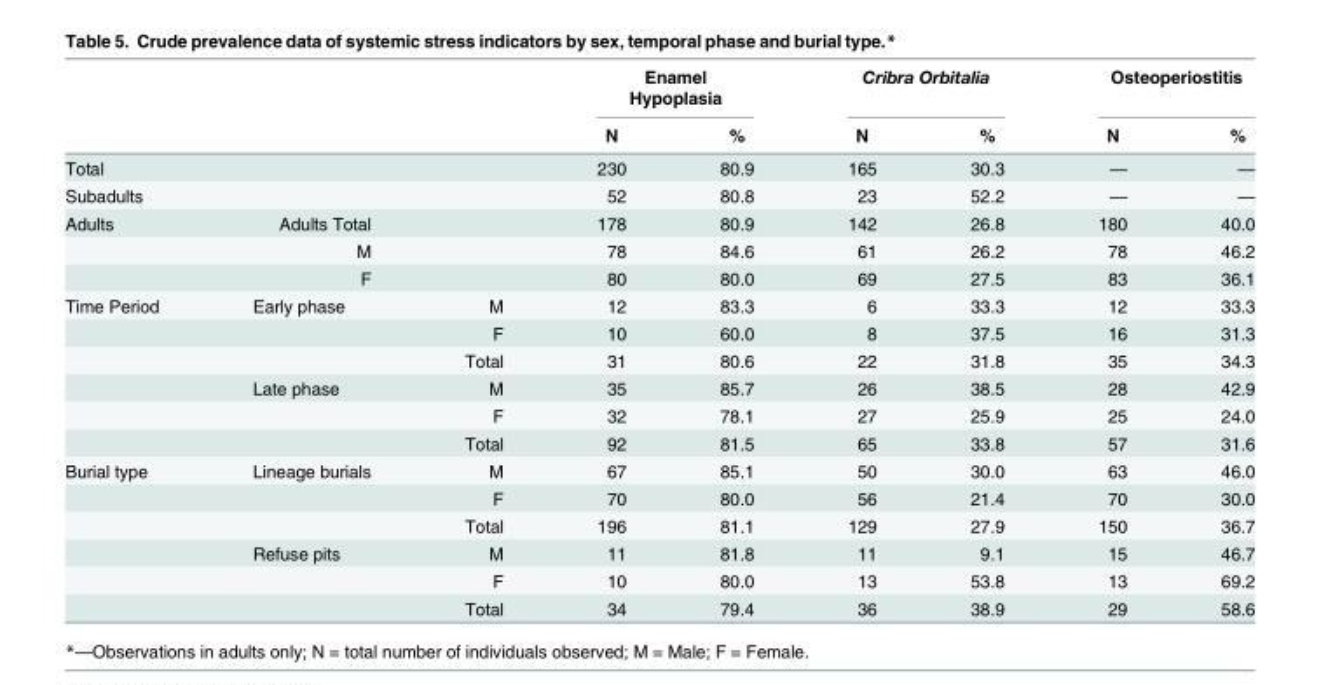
<table><thead><tr><td rowspan="2"></td><td rowspan="2"></td><td rowspan="2"></td><td colspan="2">Enamel Hypoplasia</td><td colspan="2">Cribra Orbitalia</td><td colspan="2">Osteoperiostitis</td></tr><tr><td>N</td><td>%</td><td>N</td><td>%</td><td>N</td><td>%</td></tr></thead><tbody><tr><td>Total</td><td></td><td></td><td>230</td><td>80.9</td><td>165</td><td>30.3</td><td>—</td><td>—</td></tr><tr><td>Subadults</td><td></td><td></td><td>52</td><td>80.8</td><td>23</td><td>52.2</td><td>—</td><td>—</td></tr><tr><td rowspan="3">Adults</td><td>Adults Total</td><td></td><td>178</td><td>80.9</td><td>142</td><td>26.8</td><td>180</td><td>40.0</td></tr><tr><td>M</td><td></td><td>78</td><td>84.6</td><td>61</td><td>26.2</td><td>78</td><td>46.2</td></tr><tr><td>F</td><td></td><td>80</td><td>80.0</td><td>69</td><td>27.5</td><td>83</td><td>36.1</td></tr><tr><td rowspan="6">Time Period</td><td>Early phase</td><td>M</td><td>12</td><td>83.3</td><td>6</td><td>33.3</td><td>12</td><td>33.3</td></tr><tr><td></td><td>F</td><td>10</td><td>60.0</td><td>8</td><td>37.5</td><td>16</td><td>31.3</td></tr><tr><td></td><td>Total</td><td>31</td><td>80.6</td><td>22</td><td>31.8</td><td>35</td><td>34.3</td></tr><tr><td>Late phase</td><td>M</td><td>35</td><td>85.7</td><td>26</td><td>38.5</td><td>28</td><td>42.9</td></tr><tr><td></td><td>F</td><td>32</td><td>78.1</td><td>27</td><td>25.9</td><td>25</td><td>24.0</td></tr><tr><td></td><td>Total</td><td>92</td><td>81.5</td><td>65</td><td>33.8</td><td>57</td><td>31.6</td></tr><tr><td rowspan="6">Burial type</td><td>Lineage burials</td><td>M</td><td>67</td><td>85.1</td><td>50</td><td>30.0</td><td>63</td><td>46.0</td></tr><tr><td></td><td>F</td><td>70</td><td>80.0</td><td>56</td><td>21.4</td><td>70</td><td>30.0</td></tr><tr><td></td><td>Total</td><td>196</td><td>81.1</td><td>129</td><td>27.9</td><td>150</td><td>36.7</td></tr><tr><td>Refuse pits</td><td>M</td><td>11</td><td>81.8</td><td>11</td><td>9.1</td><td>15</td><td>46.7</td></tr><tr><td></td><td>F</td><td>10</td><td>80.0</td><td>13</td><td>53.8</td><td>13</td><td>69.2</td></tr><tr><td></td><td>Total</td><td>34</td><td>79.4</td><td>36</td><td>38.9</td><td>29</td><td>58.6</td></tr></tbody></table>